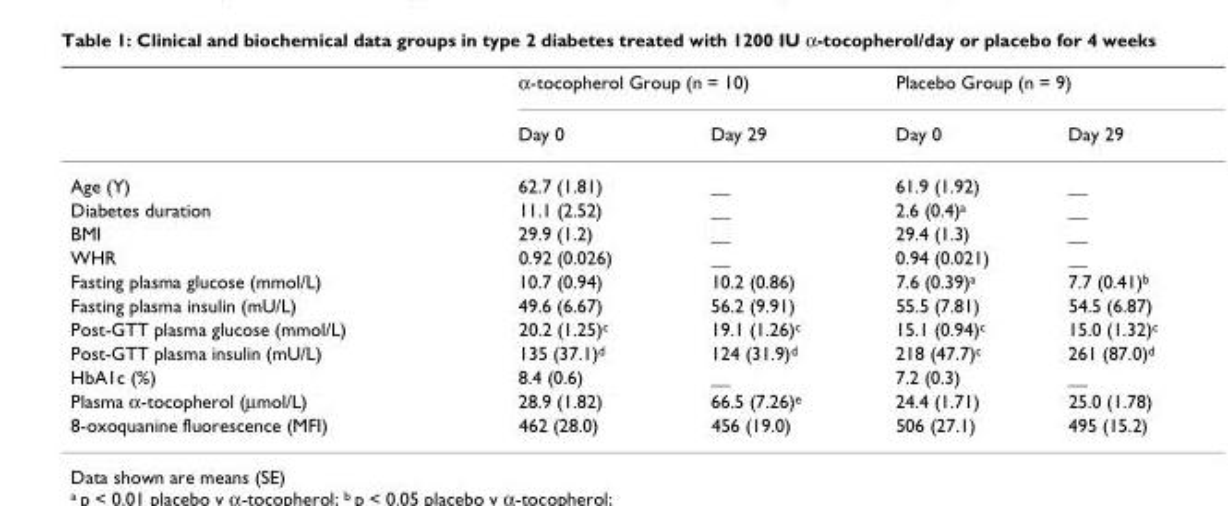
<table><thead><tr><td rowspan="2"></td><td colspan="2">α-tocopherol Group (n = 10)</td><td colspan="2">Placebo Group (n = 9)</td></tr><tr><td>Day 0</td><td>Day 29</td><td>Day 0</td><td>Day 29</td></tr></thead><tbody><tr><td>Age (Y)</td><td>62.7 (1.81)</td><td>__</td><td>61.9 (1.92)</td><td>__</td></tr><tr><td>Diabetes duration</td><td>11.1 (2.52)</td><td>__</td><td>2.6 (0.4)<sup>a</sup></td><td>__</td></tr><tr><td>BMI</td><td>29.9 (1.2)</td><td>__</td><td>29.4 (1.3)</td><td>__</td></tr><tr><td>WHR</td><td>0.92 (0.026)</td><td>__</td><td>0.94 (0.021)</td><td>__</td></tr><tr><td>Fasting plasma glucose (mmol/L)</td><td>10.7 (0.94)</td><td>10.2 (0.86)</td><td>7.6 (0.39)<sup>a</sup></td><td>7.7 (0.41)<sup>b</sup></td></tr><tr><td>Fasting plasma insulin (mU/L)</td><td>49.6 (6.67)</td><td>56.2 (9.91)</td><td>55.5 (7.81)</td><td>54.5 (6.87)</td></tr><tr><td>Post-GTT plasma glucose (mmol/L)</td><td>20.2 (1.25)<sup>c</sup></td><td>19.1 (1.26)<sup>c</sup></td><td>15.1 (0.94)<sup>c</sup></td><td>15.0 (1.32)<sup>c</sup></td></tr><tr><td>Post-GTT plasma insulin (mU/L)</td><td>135 (37.1)<sup>d</sup></td><td>124 (31.9)<sup>d</sup></td><td>218 (47.7)<sup>c</sup></td><td>261 (87.0)<sup>d</sup></td></tr><tr><td>HbA1c (%)</td><td>8.4 (0.6)</td><td>__</td><td>7.2 (0.3)</td><td>__</td></tr><tr><td>Plasma α-tocopherol (μmol/L)</td><td>28.9 (1.82)</td><td>66.5 (7.26)<sup>e</sup></td><td>24.4 (1.71)</td><td>25.0 (1.78)</td></tr><tr><td>8-oxoquanine fluorescence (MFI)</td><td>462 (28.0)</td><td>456 (19.0)</td><td>506 (27.1)</td><td>495 (15.2)</td></tr></tbody></table>